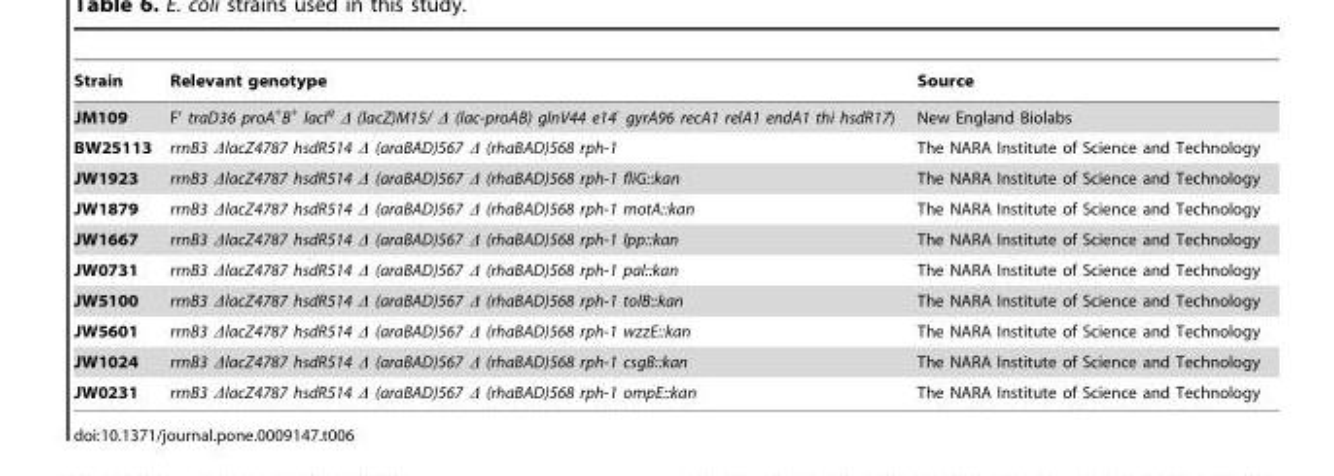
<table><thead><tr><td>Strain</td><td>Relevant genotype</td><td>Source</td></tr></thead><tbody><tr><td>JM109</td><td>F’ traD36 proA<sup>+</sup>B<sup>+</sup> lacI<sup>q</sup> Δ (lacZ)M15/ Δ (lac-proAB) glnV44 e14<sup>-</sup> gyrA96 recA1 relA1 endA1 thi hsdR17)</td><td>New England Biolabs</td></tr><tr><td>BW25113</td><td>rrnB3 ΔlacZ4787 hsdR514 Δ (araBAD)567 Δ (rhaBAD)568 rph-1</td><td>The NARA Institute of Science and Technology</td></tr><tr><td>JW1923</td><td>rrnB3 ΔlacZ4787 hsdR514 Δ (araBAD)567 Δ (rhaBAD)568 rph-1 fliG::kan</td><td>The NARA Institute of Science and Technology</td></tr><tr><td>JW1879</td><td>rrnB3 ΔlacZ4787 hsdR514 Δ (araBAD)567 Δ (rhaBAD)568 rph-1 motA::kan</td><td>The NARA Institute of Science and Technology</td></tr><tr><td>JW1667</td><td>rrnB3 ΔlacZ4787 hsdR514 Δ (araBAD)567 Δ (rhaBAD)568 rph-1 lpp::kan</td><td>The NARA Institute of Science and Technology</td></tr><tr><td>JW0731</td><td>rrnB3 ΔlacZ4787 hsdR514 Δ (araBAD)567 Δ (rhaBAD)568 rph-1 pal::kan</td><td>The NARA Institute of Science and Technology</td></tr><tr><td>JW5100</td><td>rrnB3 ΔlacZ4787 hsdR514 Δ (araBAD)567 Δ (rhaBAD)568 rph-1 tolB::kan</td><td>The NARA Institute of Science and Technology</td></tr><tr><td>JW5601</td><td>rrnB3 ΔlacZ4787 hsdR514 Δ (araBAD)567 Δ (rhaBAD)568 rph-1 wzzE::kan</td><td>The NARA Institute of Science and Technology</td></tr><tr><td>JW1024</td><td>rrnB3 ΔlacZ4787 hsdR514 Δ (araBAD)567 Δ (rhaBAD)568 rph-1 csgB::kan</td><td>The NARA Institute of Science and Technology</td></tr><tr><td>JW0231</td><td>rrnB3 ΔlacZ4787 hsdR514 Δ (araBAD)567 Δ (rhaBAD)568 rph-1 ompE::kan</td><td>The NARA Institute of Science and Technology</td></tr></tbody></table>